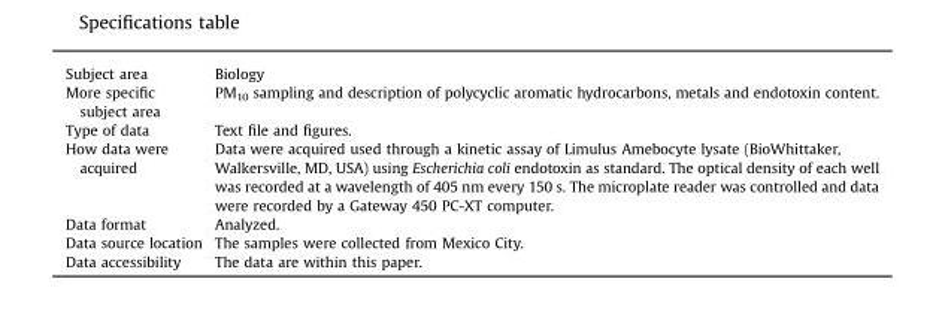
<table><tbody><tr><td>Subject area</td><td>Biology</td></tr><tr><td>More specific subject area</td><td>PM<sub>10</sub> sampling and description of polycyclic aromatic hydrocarbons, metals and endotoxin content.</td></tr><tr><td>Type of data</td><td>Text file and figures.</td></tr><tr><td>How data were acquired</td><td>Data were acquired used through a kinetic assay of Limulus Amebocyte lysate (BioWhittaker, Walkersville, MD, USA) using Escherichia coli endotoxin as standard. The optical density of each well was recorded at a wavelength of 405 nm every 150 s. The microplate reader was controlled and data were recorded by a Gateway 450 PC-XT computer.</td></tr><tr><td>Data format</td><td>Analyzed.</td></tr><tr><td>Data source location</td><td>The samples were collected from Mexico City.</td></tr><tr><td>Data accessibility</td><td>The data are within this paper.</td></tr></tbody></table>